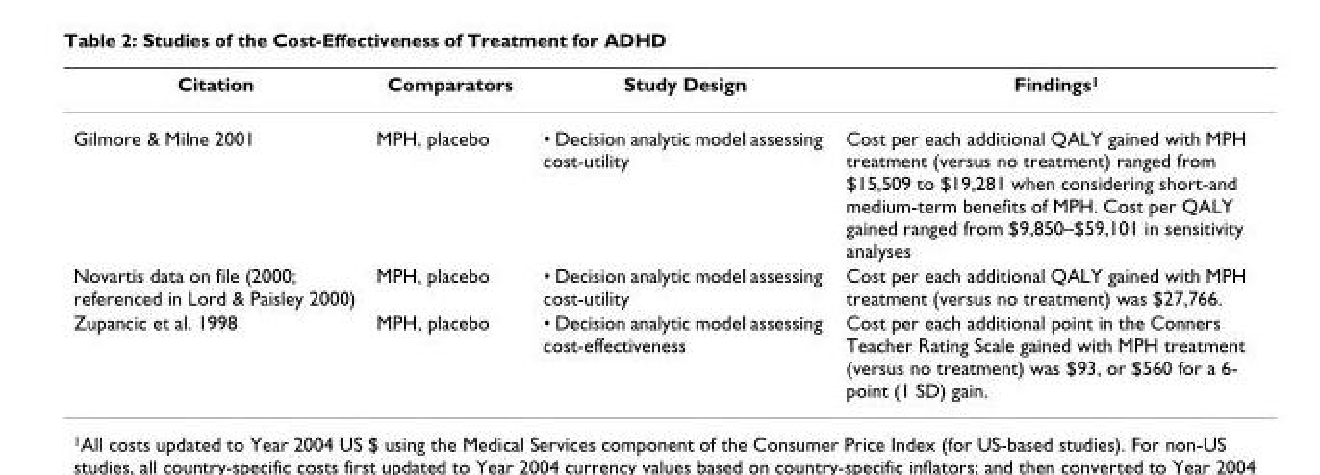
<table><thead><tr><td>Citation</td><td>Comparators</td><td>Study Design</td><td>Findings<sup>1</sup></td></tr></thead><tbody><tr><td>Gilmore &amp; Milne 2001</td><td>MPH, placebo</td><td>• Decision analytic model assessing cost-utility</td><td>Cost per each additional QALY gained with MPH treatment (versus no treatment) ranged from $15,509 to $19,281 when considering short-and medium-term benefits of MPH. Cost per QALY gained ranged from $9,850–$59,101 in sensitivity analyses</td></tr><tr><td>Novartis data on file (2000; referenced in Lord &amp; Paisley 2000)</td><td>MPH, placebo</td><td>• Decision analytic model assessing cost-utility</td><td>Cost per each additional QALY gained with MPH treatment (versus no treatment) was $27,766.</td></tr><tr><td>Zupancic et al. 1998</td><td>MPH, placebo</td><td>• Decision analytic model assessing cost-effectiveness</td><td>Cost per each additional point in the Conners Teacher Rating Scale gained with MPH treatment (versus no treatment) was $93, or $560 for a 6- point (1 SD) gain.</td></tr></tbody></table>